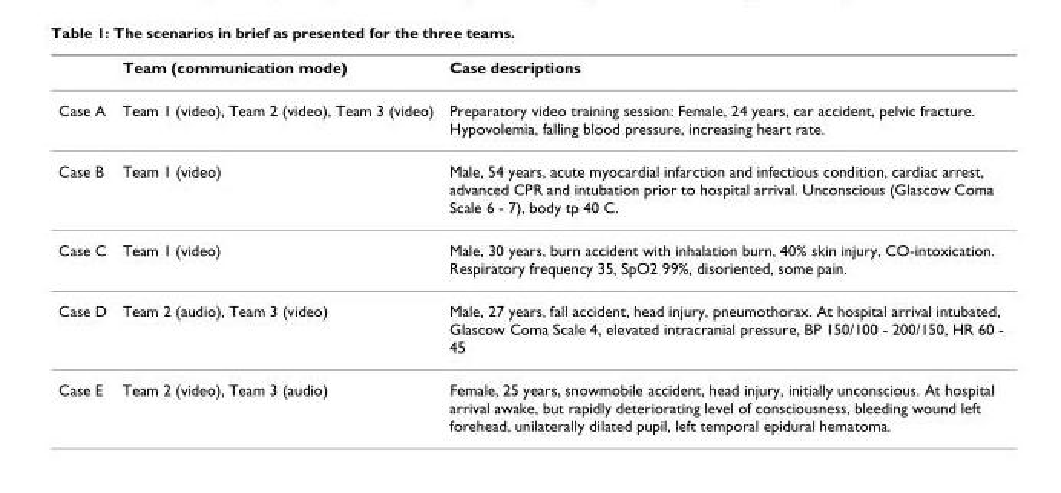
<table><thead><tr><td></td><td>Team (communication mode)</td><td>Case descriptions</td></tr></thead><tbody><tr><td>Case A</td><td>Team 1 (video), Team 2 (video), Team 3 (video)</td><td>Preparatory video training session: Female, 24 years, car accident, pelvic fracture. Hypovolemia, falling blood pressure, increasing heart rate.</td></tr><tr><td>Case B</td><td>Team 1 (video)</td><td>Male, 54 years, acute myocardial infarction and infectious condition, cardiac arrest, advanced CPR and intubation prior to hospital arrival. Unconscious (Glascow Coma Scale 6 - 7), body tp 40 C.</td></tr><tr><td>Case C</td><td>Team 1 (video)</td><td>Male, 30 years, burn accident with inhalation burn, 40% skin injury, CO-intoxication. Respiratory frequency 35, SpO2 99%, disoriented, some pain.</td></tr><tr><td>Case D</td><td>Team 2 (audio), Team 3 (video)</td><td>Male, 27 years, fall accident, head injury, pneumothorax. At hospital arrival intubated, Glascow Coma Scale 4, elevated intracranial pressure, BP 150/100 - 200/150, HR 60 - 45</td></tr><tr><td>Case E</td><td>Team 2 (video), Team 3 (audio)</td><td>Female, 25 years, snowmobile accident, head injury, initially unconscious. At hospital arrival awake, but rapidly deteriorating level of consciousness, bleeding wound left forehead, unilaterally dilated pupil, left temporal epidural hematoma.</td></tr></tbody></table>